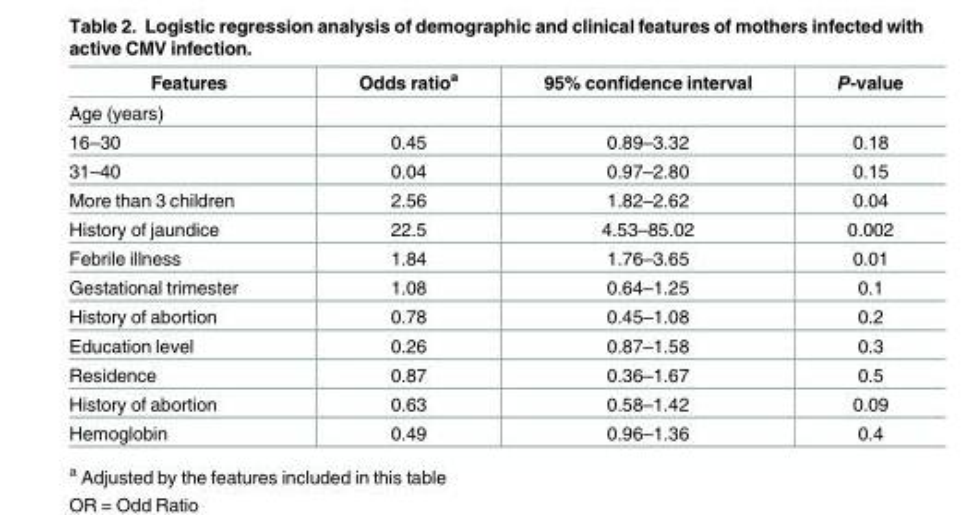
<table><thead><tr><td>Features</td><td>Odds ratio<sup>a</sup></td><td>95% confidence interval</td><td>P-value</td></tr></thead><tbody><tr><td colspan="4">Age (years)</td></tr><tr><td>16–30</td><td>0.45</td><td>0.89–3.32</td><td>0.18</td></tr><tr><td>31–40</td><td>0.04</td><td>0.97–2.80</td><td>0.15</td></tr><tr><td>More than 3 children</td><td>2.56</td><td>1.82–2.62</td><td>0.04</td></tr><tr><td>History of jaundice</td><td>22.5</td><td>4.53–85.02</td><td>0.002</td></tr><tr><td>Febrile illness</td><td>1.84</td><td>1.76–3.65</td><td>0.01</td></tr><tr><td>Gestational trimester</td><td>1.08</td><td>0.64–1.25</td><td>0.1</td></tr><tr><td>History of abortion</td><td>0.78</td><td>0.45–1.08</td><td>0.2</td></tr><tr><td>Education level</td><td>0.26</td><td>0.87–1.58</td><td>0.3</td></tr><tr><td>Residence</td><td>0.87</td><td>0.36–1.67</td><td>0.5</td></tr><tr><td>History of abortion</td><td>0.63</td><td>0.58–1.42</td><td>0.09</td></tr><tr><td>Hemoglobin</td><td>0.49</td><td>0.96–1.36</td><td>0.4</td></tr></tbody></table>